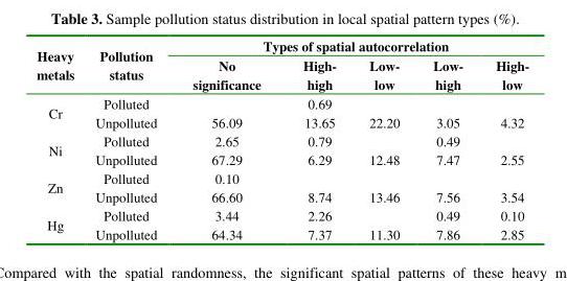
<table><thead><tr><td rowspan="2">Heavy metals</td><td rowspan="2">Pollution status</td><td colspan="5">Types of spatial autocorrelation</td></tr><tr><td>No significance</td><td>High- high</td><td>Low- low</td><td>Low- high</td><td>High- low</td></tr></thead><tbody><tr><td rowspan="2">Cr</td><td>Polluted</td><td></td><td>0.69</td><td></td><td></td><td></td></tr><tr><td>Unpolluted</td><td>56.09</td><td>13.65</td><td>22.20</td><td>3.05</td><td>4.32</td></tr><tr><td rowspan="2">Ni</td><td>Polluted</td><td>2.65</td><td>0.79</td><td></td><td>0.49</td><td></td></tr><tr><td>Unpolluted</td><td>67.29</td><td>6.29</td><td>12.48</td><td>7.47</td><td>2.55</td></tr><tr><td rowspan="2">Zn</td><td>Polluted</td><td>0.10</td><td></td><td></td><td></td><td></td></tr><tr><td>Unpolluted</td><td>66.60</td><td>8.74</td><td>13.46</td><td>7.56</td><td>3.54</td></tr><tr><td rowspan="2">Hg</td><td>Polluted</td><td>3.44</td><td>2.26</td><td></td><td>0.49</td><td>0.10</td></tr><tr><td>Unpolluted</td><td>64.34</td><td>7.37</td><td>11.30</td><td>7.86</td><td>2.85</td></tr></tbody></table>